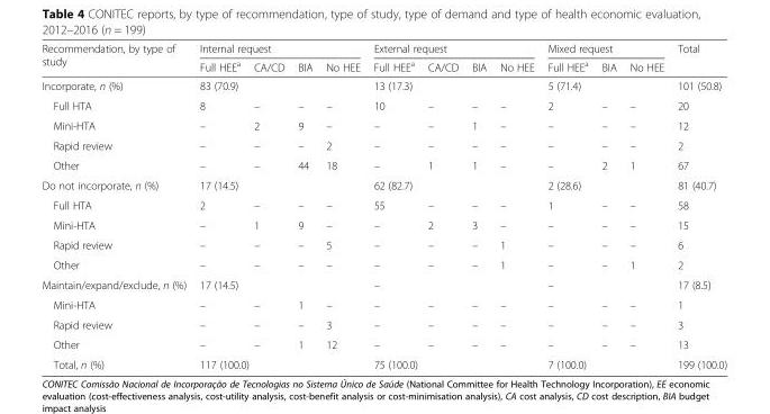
<table><thead><tr><td rowspan="2">Recommendation, by type of study</td><td colspan="4">Internal request</td><td colspan="4">External request</td><td colspan="3">Mixed request</td><td rowspan="2">Total</td></tr><tr><td>Full HEE<sup>a</sup></td><td>CA/CD</td><td>BIA</td><td>No HEE</td><td>Full HEE<sup>a</sup></td><td>CA/CD</td><td>BIA</td><td>No HEE</td><td>Full HEE<sup>a</sup></td><td>BIA</td><td>No HEE</td></tr></thead><tbody><tr><td>Incorporate, n (%)</td><td colspan="4">83 (70.9)</td><td colspan="4">13 (17.3)</td><td colspan="3">5 (71.4)</td><td>101 (50.8)</td></tr><tr><td>Full HTA</td><td>8</td><td>–</td><td>–</td><td>–</td><td>10</td><td>–</td><td>–</td><td>–</td><td>2</td><td>–</td><td>–</td><td>20</td></tr><tr><td>Mini-HTA</td><td>–</td><td>2</td><td>9</td><td>–</td><td>–</td><td>–</td><td>1</td><td>–</td><td>–</td><td>–</td><td>–</td><td>12</td></tr><tr><td>Rapid review</td><td>–</td><td>–</td><td>–</td><td>2</td><td>–</td><td>–</td><td>–</td><td>–</td><td>–</td><td>–</td><td>–</td><td>2</td></tr><tr><td>Other</td><td>–</td><td>–</td><td>44</td><td>18</td><td>–</td><td>1</td><td>1</td><td>–</td><td>–</td><td>2</td><td>1</td><td>67</td></tr><tr><td>Do not incorporate, n (%)</td><td colspan="4">17 (14.5)</td><td colspan="4">62 (82.7)</td><td colspan="3">2 (28.6)</td><td>81 (40.7)</td></tr><tr><td>Full HTA</td><td>2</td><td>–</td><td>–</td><td>–</td><td>55</td><td>–</td><td>–</td><td>–</td><td>1</td><td>–</td><td>–</td><td>58</td></tr><tr><td>Mini-HTA</td><td>–</td><td>1</td><td>9</td><td>–</td><td>–</td><td>2</td><td>3</td><td>–</td><td>–</td><td>–</td><td>–</td><td>15</td></tr><tr><td>Rapid review</td><td>–</td><td>–</td><td>–</td><td>5</td><td>–</td><td>–</td><td>–</td><td>1</td><td>–</td><td>–</td><td>–</td><td>6</td></tr><tr><td>Other</td><td>–</td><td>–</td><td>–</td><td>–</td><td>–</td><td>–</td><td>–</td><td>1</td><td>–</td><td>–</td><td>1</td><td>2</td></tr><tr><td>Maintain/expand/exclude, n (%)</td><td colspan="4">17 (14.5)</td><td colspan="4">–</td><td colspan="3">–</td><td>17 (8.5)</td></tr><tr><td>Mini-HTA</td><td>–</td><td>–</td><td>1</td><td>–</td><td>–</td><td>–</td><td>–</td><td>–</td><td>–</td><td>–</td><td>–</td><td>1</td></tr><tr><td>Rapid review</td><td>–</td><td>–</td><td>–</td><td>3</td><td>–</td><td>–</td><td>–</td><td>–</td><td>–</td><td>–</td><td>–</td><td>3</td></tr><tr><td>Other</td><td>–</td><td>–</td><td>1</td><td>12</td><td>–</td><td>–</td><td>–</td><td>–</td><td>–</td><td>–</td><td>–</td><td>13</td></tr><tr><td>Total, n (%)</td><td colspan="4">117 (100.0)</td><td colspan="4">75 (100.0)</td><td colspan="3">7 (100.0)</td><td>199 (100.0)</td></tr></tbody></table>